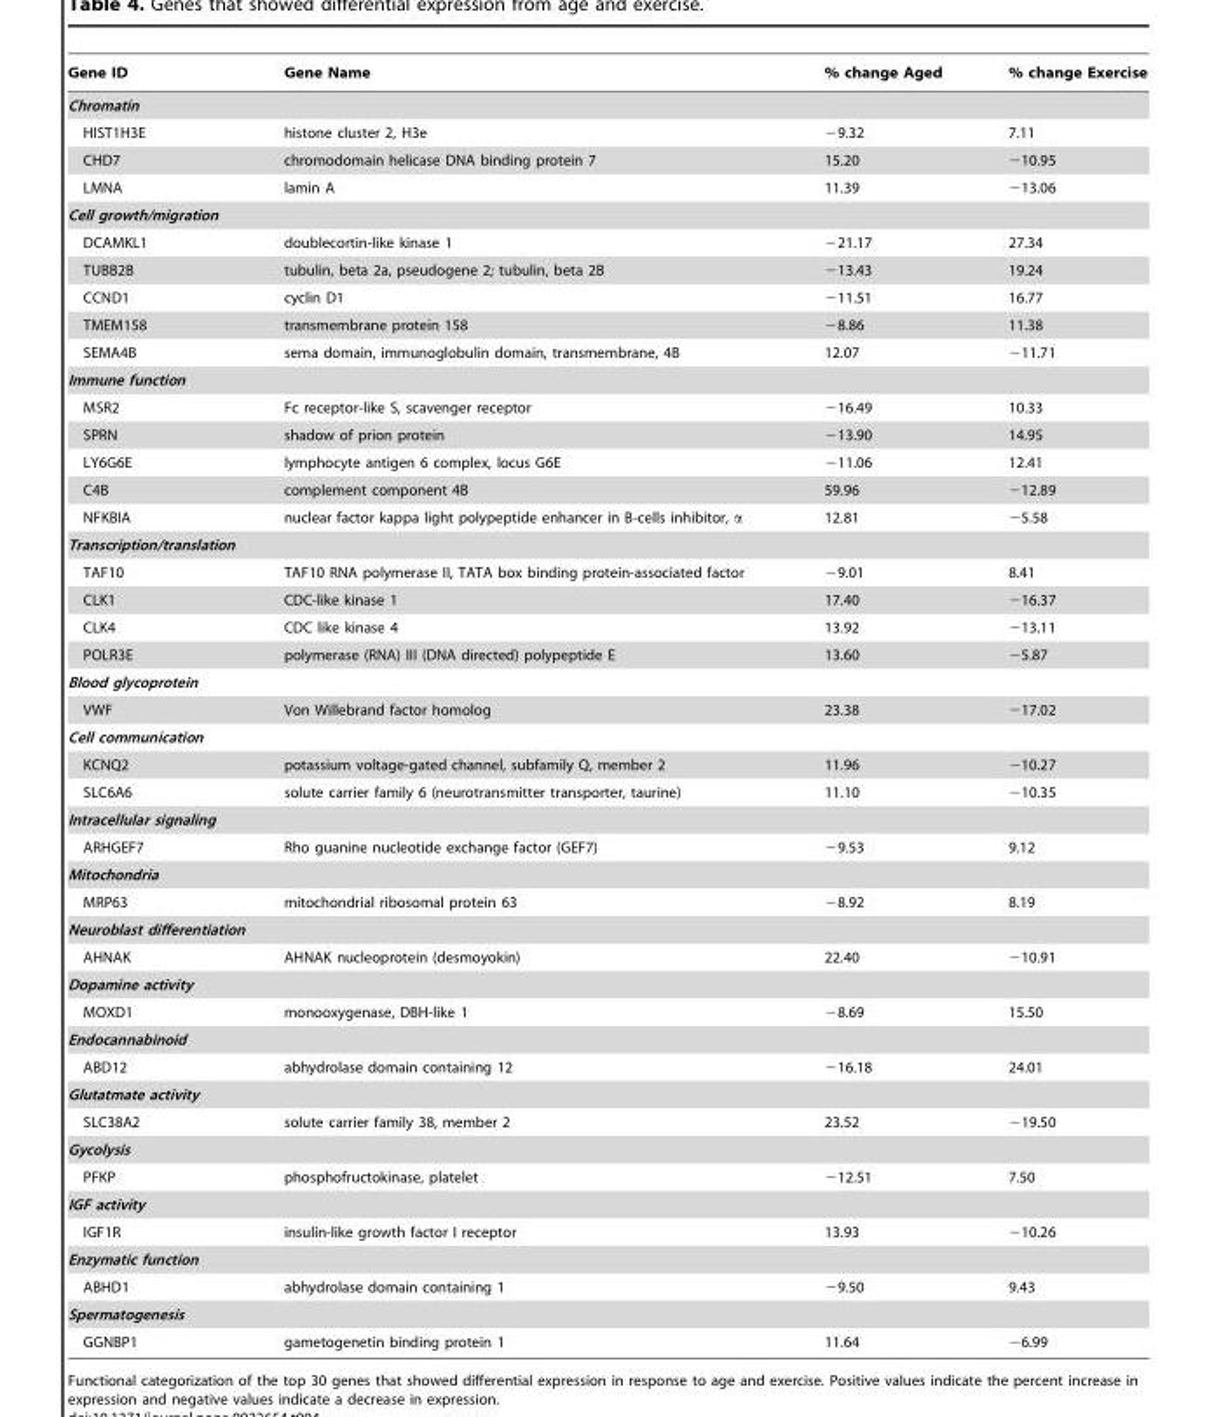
<table><thead><tr><td>Gene ID</td><td>Gene Name</td><td>% change Aged</td><td>% change Exercise</td></tr></thead><tbody><tr><td colspan="4">Chromatin</td></tr><tr><td>HIST1H3E</td><td>histone cluster 2, H3e</td><td>−9.32</td><td>7.11</td></tr><tr><td>CHD7</td><td>chromodomain helicase DNA binding protein 7</td><td>15.20</td><td>−10.95</td></tr><tr><td>LMNA</td><td>lamin A</td><td>11.39</td><td>−13.06</td></tr><tr><td colspan="4">Cell growth/migration</td></tr><tr><td>DCAMKL1</td><td>doublecortin-like kinase 1</td><td>−21.17</td><td>27.34</td></tr><tr><td>TUBB2B</td><td>tubulin, beta 2a, pseudogene 2; tubulin, beta 2B</td><td>−13.43</td><td>19.24</td></tr><tr><td>CCND1</td><td>cyclin D1</td><td>−11.51</td><td>16.77</td></tr><tr><td>TMEM158</td><td>transmembrane protein 158</td><td>−8.86</td><td>11.38</td></tr><tr><td>SEMA4B</td><td>sema domain, immunoglobulin domain, transmembrane, 4B</td><td>12.07</td><td>−11.71</td></tr><tr><td colspan="4">Immune function</td></tr><tr><td>MSR2</td><td>Fc receptor-like S, scavenger receptor</td><td>−16.49</td><td>10.33</td></tr><tr><td>SPRN</td><td>shadow of prion protein</td><td>−13.90</td><td>14.95</td></tr><tr><td>LY6G6E</td><td>lymphocyte antigen 6 complex, locus G6E</td><td>−11.06</td><td>12.41</td></tr><tr><td>C4B</td><td>complement component 4B</td><td>59.96</td><td>−12.89</td></tr><tr><td>NFKBIA</td><td>nuclear factor kappa light polypeptide enhancer in B-cells inhibitor, α</td><td>12.81</td><td>−5.58</td></tr><tr><td colspan="4">Transcription/translation</td></tr><tr><td>TAF10</td><td>TAF10 RNA polymerase II, TATA box binding protein-associated factor</td><td>−9.01</td><td>8.41</td></tr><tr><td>CLK1</td><td>CDC-like kinase 1</td><td>17.40</td><td>−16.37</td></tr><tr><td>CLK4</td><td>CDC like kinase 4</td><td>13.92</td><td>−13.11</td></tr><tr><td>POLR3E</td><td>polymerase (RNA) III (DNA directed) polypeptide E</td><td>13.60</td><td>−5.87</td></tr><tr><td colspan="4">Blood glycoprotein</td></tr><tr><td>VWF</td><td>Von Willebrand factor homolog</td><td>23.38</td><td>−17.02</td></tr><tr><td colspan="4">Cell communication</td></tr><tr><td>KCNQ2</td><td>potassium voltage-gated channel, subfamily Q, member 2</td><td>11.96</td><td>−10.27</td></tr><tr><td>SLC6A6</td><td>solute carrier family 6 (neurotransmitter transporter, taurine)</td><td>11.10</td><td>−10.35</td></tr><tr><td colspan="4">Intracellular signaling</td></tr><tr><td>ARHGEF7</td><td>Rho guanine nucleotide exchange factor (GEF7)</td><td>−9.53</td><td>9.12</td></tr><tr><td colspan="4">Mitochondria</td></tr><tr><td>MRP63</td><td>mitochondrial ribosomal protein 63</td><td>−8.92</td><td>8.19</td></tr><tr><td colspan="4">Neuroblast differentiation</td></tr><tr><td>AHNAK</td><td>AHNAK nucleoprotein (desmoyokin)</td><td>22.40</td><td>−10.91</td></tr><tr><td colspan="4">Dopamine activity</td></tr><tr><td>MOXD1</td><td>monooxygenase, DBH-like 1</td><td>−8.69</td><td>15.50</td></tr><tr><td colspan="4">Endocannabinoid</td></tr><tr><td>ABD12</td><td>abhydrolase domain containing 12</td><td>−16.18</td><td>24.01</td></tr><tr><td colspan="4">Glutatmate activity</td></tr><tr><td>SLC38A2</td><td>solute carrier family 38, member 2</td><td>23.52</td><td>−19.50</td></tr><tr><td colspan="4">Gycolysis</td></tr><tr><td>PFKP</td><td>phosphofructokinase, platelet</td><td>−12.51</td><td>7.50</td></tr><tr><td colspan="4">IGF activity</td></tr><tr><td>IGF1R</td><td>insulin-like growth factor I receptor</td><td>13.93</td><td>−10.26</td></tr><tr><td colspan="4">Enzymatic function</td></tr><tr><td>ABHD1</td><td>abhydrolase domain containing 1</td><td>−9.50</td><td>9.43</td></tr><tr><td colspan="4">Spermatogenesis</td></tr><tr><td>GGNBP1</td><td>gametogenetin binding protein 1</td><td>11.64</td><td>−6.99</td></tr></tbody></table>